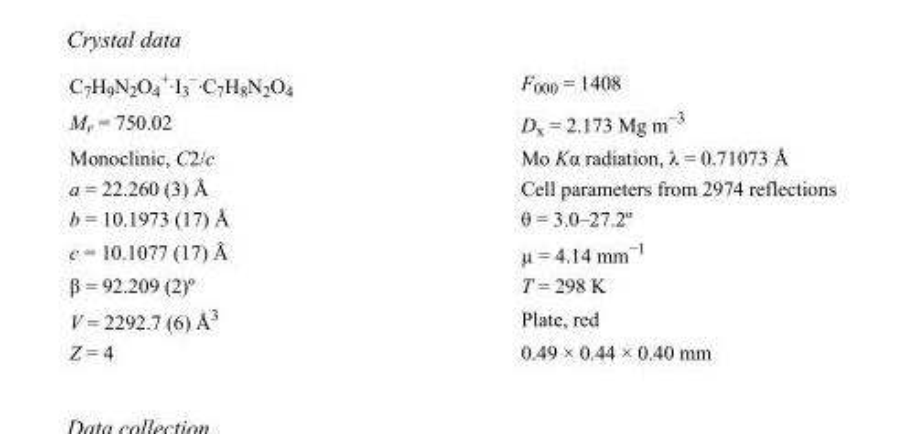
<table><tbody><tr><td>C<sub>7</sub>H<sub>9</sub>N<sub>2</sub>O<sub>4</sub> <sup>+</sup>·I<sub>3</sub> <sup>–</sup>·C<sub>7</sub>H<sub>8</sub>N<sub>2</sub>O<sub>4</sub></td><td>F000 = 1408</td></tr><tr><td>M<sub>r</sub> = 750.02</td><td>D<sub>x</sub> = 2.173 Mg m<sup>−3</sup></td></tr><tr><td>Monoclinic, C2/c</td><td>Mo Kα radiation, λ = 0.71073 Å</td></tr><tr><td>a = 22.260 (3) Å</td><td>Cell parameters from 2974 reflections</td></tr><tr><td>b = 10.1973 (17) Å</td><td>θ = 3.0–27.2º</td></tr><tr><td>c = 10.1077 (17) Å</td><td>µ = 4.14 mm<sup>−1</sup></td></tr><tr><td>β = 92.209 (2)º</td><td>T = 298 K</td></tr><tr><td>V = 2292.7 (6) Å<sup>3</sup></td><td>Plate, red</td></tr><tr><td>Z = 4</td><td>0.49 × 0.44 × 0.40 mm</td></tr></tbody></table>